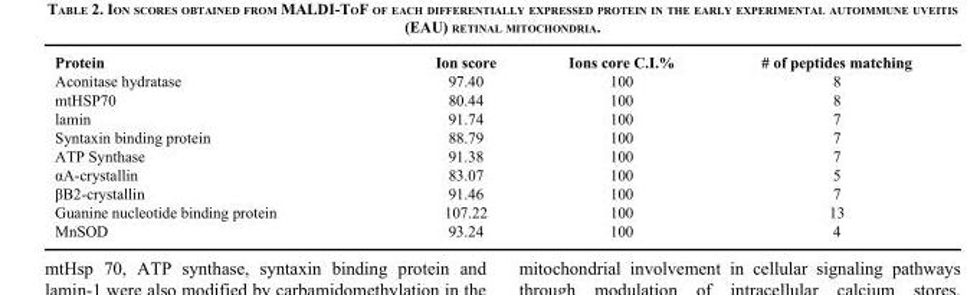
<table><thead><tr><td>Protein</td><td>Ion score</td><td>Ions core C.I.%</td><td># of peptides matching</td></tr></thead><tbody><tr><td>Aconitase hydratase</td><td>97.40</td><td>100</td><td>8</td></tr><tr><td>mtHSP70</td><td>80.44</td><td>100</td><td>8</td></tr><tr><td>lamin</td><td>91.74</td><td>100</td><td>7</td></tr><tr><td>Syntaxin binding protein</td><td>88.79</td><td>100</td><td>7</td></tr><tr><td>ATP Synthase</td><td>91.38</td><td>100</td><td>7</td></tr><tr><td>αA-crystallin</td><td>83.07</td><td>100</td><td>5</td></tr><tr><td>βB2-crystallin</td><td>91.46</td><td>100</td><td>7</td></tr><tr><td>Guanine nucleotide binding protein</td><td>107.22</td><td>100</td><td>13</td></tr><tr><td>MnSOD</td><td>93.24</td><td>100</td><td>4</td></tr></tbody></table>